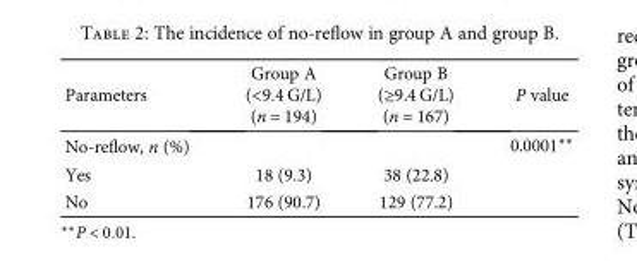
<table><thead><tr><td>Parameters</td><td>Group A (&lt;9.4 G/L) (n = 194)</td><td>Group B (≥9.4 G/L) (n = 167)</td><td>P value</td></tr></thead><tbody><tr><td>No-reflow, n (%)</td><td></td><td></td><td>0.0001∗∗</td></tr><tr><td>Yes</td><td>18 (9.3)</td><td>38 (22.8)</td><td></td></tr><tr><td>No</td><td>176 (90.7)</td><td>129 (77.2)</td><td></td></tr></tbody></table>